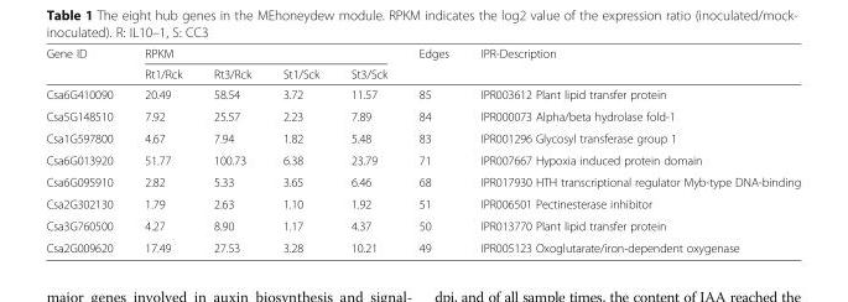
<table><thead><tr><td rowspan="2">Gene ID</td><td colspan="4">RPKM</td><td rowspan="2">Edges</td><td rowspan="2">IPR-Description</td></tr><tr><td>Rt1/Rck</td><td>Rt3/Rck</td><td>St1/Sck</td><td>St3/Sck</td></tr></thead><tbody><tr><td>Csa6G410090</td><td>20.49</td><td>58.54</td><td>3.72</td><td>11.57</td><td>85</td><td>IPR003612 Plant lipid transfer protein</td></tr><tr><td>Csa5G148510</td><td>7.92</td><td>25.57</td><td>2.23</td><td>7.89</td><td>84</td><td>IPR000073 Alpha/beta hydrolase fold-1</td></tr><tr><td>Csa1G597800</td><td>4.67</td><td>7.94</td><td>1.82</td><td>5.48</td><td>83</td><td>IPR001296 Glycosyl transferase group 1</td></tr><tr><td>Csa6G013920</td><td>51.77</td><td>100.73</td><td>6.38</td><td>23.79</td><td>71</td><td>IPR007667 Hypoxia induced protein domain</td></tr><tr><td>Csa6G095910</td><td>2.82</td><td>5.33</td><td>3.65</td><td>6.46</td><td>68</td><td>IPR017930 HTH transcriptional regulator Myb-type DNA-binding</td></tr><tr><td>Csa2G302130</td><td>1.79</td><td>2.63</td><td>1.10</td><td>1.92</td><td>51</td><td>IPR006501 Pectinesterase inhibitor</td></tr><tr><td>Csa3G760500</td><td>4.27</td><td>8.90</td><td>1.17</td><td>4.37</td><td>50</td><td>IPR013770 Plant lipid transfer protein</td></tr><tr><td>Csa2G009620</td><td>17.49</td><td>27.53</td><td>3.28</td><td>10.21</td><td>49</td><td>IPR005123 Oxoglutarate/iron-dependent oxygenase</td></tr></tbody></table>